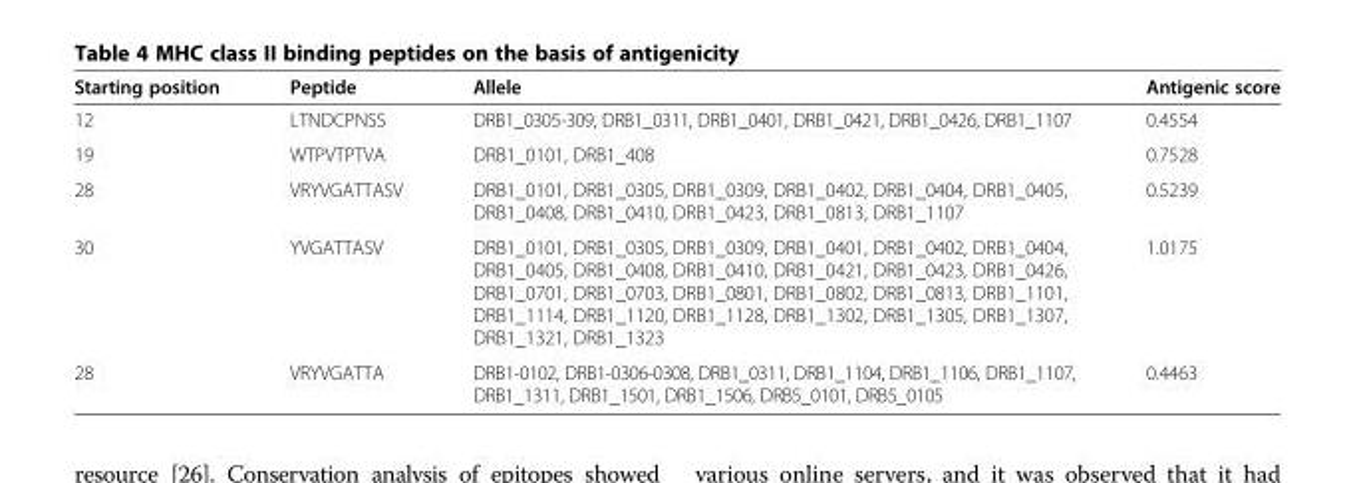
<table><thead><tr><td>Starting position</td><td>Peptide</td><td>Allele</td><td>Antigenic score</td></tr></thead><tbody><tr><td>12</td><td>LTNDCPNSS</td><td>DRB1_0305-309, DRB1_0311, DRB1_0401, DRB1_0421, DRB1_0426, DRB1_1107</td><td>0.4554</td></tr><tr><td>19</td><td>WTPVTPTVA</td><td>DRB1_0101, DRB1_408</td><td>0.7528</td></tr><tr><td>28</td><td>VRYVGATTASV</td><td>DRB1_0101, DRB1_0305, DRB1_0309, DRB1_0402, DRB1_0404, DRB1_0405, DRB1_0408, DRB1_0410, DRB1_0423, DRB1_0813, DRB1_1107</td><td>0.5239</td></tr><tr><td>30</td><td>YVGATTASV</td><td>DRB1_0101, DRB1_0305, DRB1_0309, DRB1_0401, DRB1_0402, DRB1_0404, DRB1_0405, DRB1_0408, DRB1_0410, DRB1_0421, DRB1_0423, DRB1_0426, DRB1_0701, DRB1_0703, DRB1_0801, DRB1_0802, DRB1_0813, DRB1_1101, DRB1_1114, DRB1_1120, DRB1_1128, DRB1_1302, DRB1_1305, DRB1_1307, DRB1_1321, DRB1_1323</td><td>1.0175</td></tr><tr><td>28</td><td>VRYVGATTA</td><td>DRB1-0102, DRB1-0306-0308, DRB1_0311, DRB1_1104, DRB1_1106, DRB1_1107, DRB1_1311, DRB1_1501, DRB1_1506, DRB5_0101, DRB5_0105</td><td>0.4463</td></tr></tbody></table>